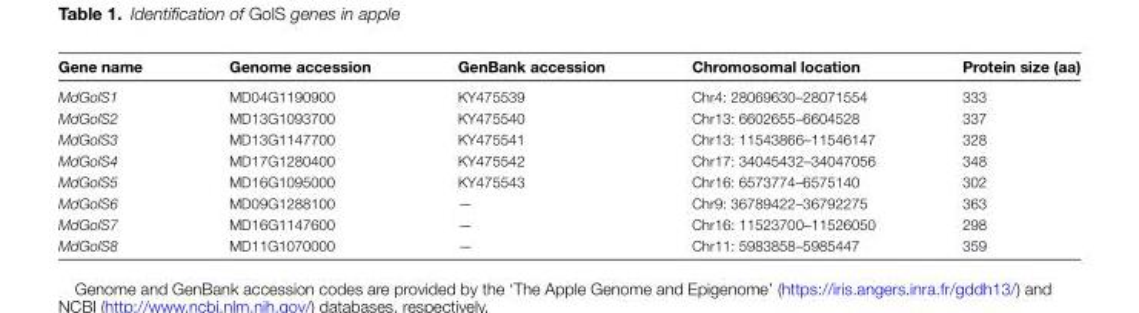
<table><thead><tr><td>Gene name</td><td>Genome accession</td><td>GenBank accession</td><td>Chromosomal location</td><td>Protein size (aa)</td></tr></thead><tbody><tr><td>MdGolS1</td><td>MD04G1190900</td><td>KY475539</td><td>Chr4: 28069630–28071554</td><td>333</td></tr><tr><td>MdGolS2</td><td>MD13G1093700</td><td>KY475540</td><td>Chr13: 6602655–6604528</td><td>337</td></tr><tr><td>MdGolS3</td><td>MD13G1147700</td><td>KY475541</td><td>Chr13: 11543866–11546147</td><td>328</td></tr><tr><td>MdGolS4</td><td>MD17G1280400</td><td>KY475542</td><td>Chr17: 34045432–34047056</td><td>348</td></tr><tr><td>MdGolS5</td><td>MD16G1095000</td><td>KY475543</td><td>Chr16: 6573774–6575140</td><td>302</td></tr><tr><td>MdGolS6</td><td>MD09G1288100</td><td>—</td><td>Chr9: 36789422–36792275</td><td>363</td></tr><tr><td>MdGolS7</td><td>MD16G1147600</td><td>—</td><td>Chr16: 11523700–11526050</td><td>298</td></tr><tr><td>MdGolS8</td><td>MD11G1070000</td><td>—</td><td>Chr11: 5983858–5985447</td><td>359</td></tr></tbody></table>